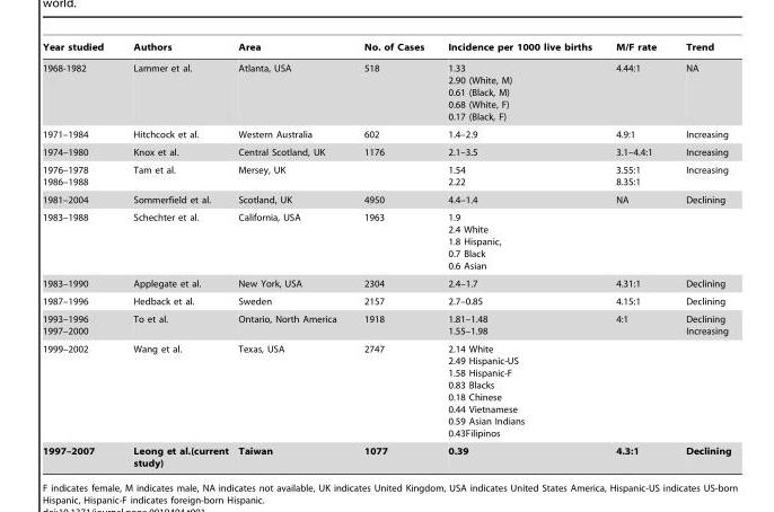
<table><thead><tr><td>Year studied</td><td>Authors</td><td>Area</td><td>No. of Cases</td><td>Incidence per 1000 live births</td><td>M/F rate</td><td>Trend</td></tr></thead><tbody><tr><td>1968-1982</td><td>Lammer et al.</td><td>Atlanta, USA</td><td>518</td><td>1.33 2.90 (White, M) 0.61 (Black, M) 0.68 (White, F) 0.17 (Black, F)</td><td>4.44:1</td><td>NA</td></tr><tr><td>1971–1984</td><td>Hitchcock et al.</td><td>Western Australia</td><td>602</td><td>1.4–2.9</td><td>4.9:1</td><td>Increasing</td></tr><tr><td>1974–1980</td><td>Knox et al.</td><td>Central Scotland, UK</td><td>1176</td><td>2.1–3.5</td><td>3.1–4.4:1</td><td>Increasing</td></tr><tr><td>1976–1978 1986–1988</td><td>Tam et al.</td><td>Mersey, UK</td><td></td><td>1.54 2.22</td><td>3.55:1 8.35:1</td><td>Increasing</td></tr><tr><td>1981–2004</td><td>Sommerfield et al.</td><td>Scotland, UK</td><td>4950</td><td>4.4–1.4</td><td>NA</td><td>Declining</td></tr><tr><td>1983–1988</td><td>Schechter et al.</td><td>California, USA</td><td>1963</td><td>1.9 2.4 White 1.8 Hispanic, 0.7 Black 0.6 Asian</td><td></td><td></td></tr><tr><td>1983–1990</td><td>Applegate et al.</td><td>New York, USA</td><td>2304</td><td>2.4–1.7</td><td>4.31:1</td><td>Declining</td></tr><tr><td>1987–1996</td><td>Hedback et al.</td><td>Sweden</td><td>2157</td><td>2.7–0.85</td><td>4.15:1</td><td>Declining</td></tr><tr><td>1993–1996 1997–2000</td><td>To et al.</td><td>Ontario, North America</td><td>1918</td><td>1.81–1.48 1.55–1.98</td><td>4:1</td><td>Declining Increasing</td></tr><tr><td>1999–2002</td><td>Wang et al.</td><td>Texas, USA</td><td>2747</td><td>2.14 White 2.49 Hispanic-US 1.58 Hispanic-F 0.83 Blacks 0.18 Chinese 0.44 Vietnamese 0.59 Asian Indians 0.43Filipinos</td><td></td><td></td></tr><tr><td>1997–2007</td><td>Leong et al.(current study)</td><td>Taiwan</td><td>1077</td><td>0.39</td><td>4.3:1</td><td>Declining</td></tr></tbody></table>